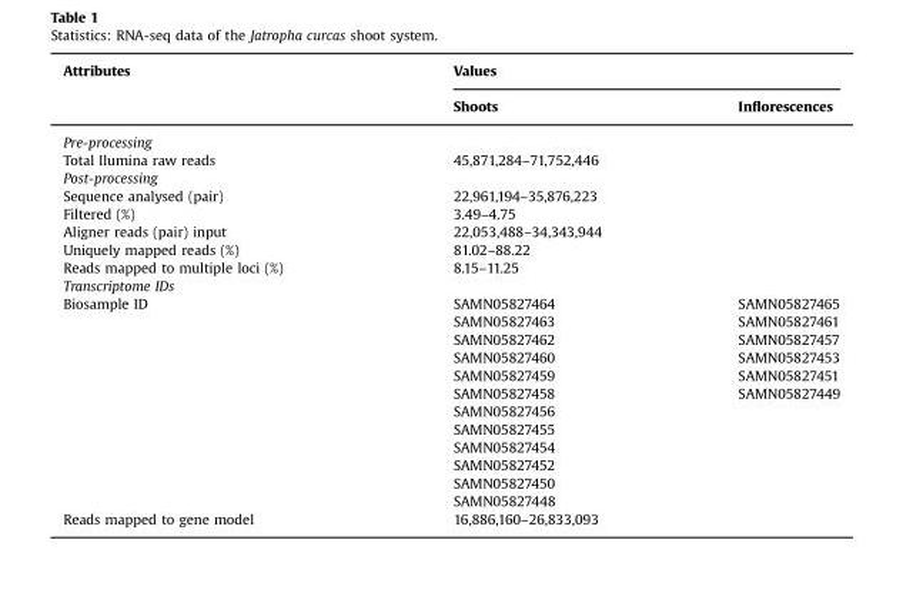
<table><thead><tr><td rowspan="2">Attributes</td><td colspan="2">Values</td></tr><tr><td>Shoots</td><td>Inflorescences</td></tr></thead><tbody><tr><td colspan="3">Pre-processing</td></tr><tr><td>Total Ilumina raw reads</td><td colspan="2">45,871,284–71,752,446</td></tr><tr><td colspan="3">Post-processing</td></tr><tr><td>Sequence analysed (pair)</td><td colspan="2">22,961,194–35,876,223</td></tr><tr><td>Filtered (%)</td><td colspan="2">3.49–4.75</td></tr><tr><td>Aligner reads (pair) input</td><td colspan="2">22,053,488–34,343,944</td></tr><tr><td>Uniquely mapped reads (%)</td><td colspan="2">81.02–88.22</td></tr><tr><td>Reads mapped to multiple loci (%)</td><td colspan="2">8.15–11.25</td></tr><tr><td colspan="3">Transcriptome IDs</td></tr><tr><td rowspan="12">Biosample ID</td><td>SAMN05827464</td><td>SAMN05827465</td></tr><tr><td>SAMN05827463</td><td>SAMN05827461</td></tr><tr><td>SAMN05827462</td><td>SAMN05827457</td></tr><tr><td>SAMN05827460</td><td>SAMN05827453</td></tr><tr><td>SAMN05827459</td><td>SAMN05827451</td></tr><tr><td>SAMN05827458</td><td rowspan="7">SAMN05827449</td></tr><tr><td>SAMN05827456</td></tr><tr><td>SAMN05827455</td></tr><tr><td>SAMN05827454</td></tr><tr><td>SAMN05827452</td></tr><tr><td>SAMN05827450</td></tr><tr><td>SAMN05827448</td></tr><tr><td>Reads mapped to gene model</td><td colspan="2">16,886,160–26,833,093</td></tr></tbody></table>